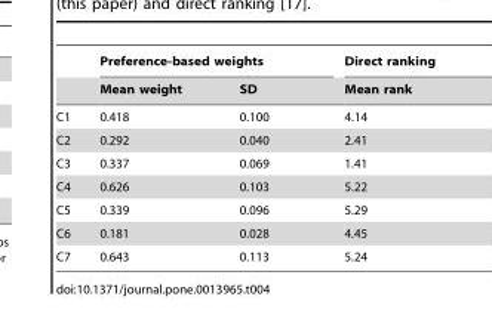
<table><thead><tr><td rowspan="2"></td><td colspan="2">Preference-based weights</td><td rowspan="2">Direct ranking Mean rank</td></tr><tr><td>Mean weight</td><td>SD</td></tr></thead><tbody><tr><td>C1</td><td>0.418</td><td>0.100</td><td>4.14</td></tr><tr><td>C2</td><td>0.292</td><td>0.040</td><td>2.41</td></tr><tr><td>C3</td><td>0.337</td><td>0.069</td><td>1.41</td></tr><tr><td>C4</td><td>0.626</td><td>0.103</td><td>5.22</td></tr><tr><td>C5</td><td>0.339</td><td>0.096</td><td>5.29</td></tr><tr><td>C6</td><td>0.181</td><td>0.028</td><td>4.45</td></tr><tr><td>C7</td><td>0.643</td><td>0.113</td><td>5.24</td></tr></tbody></table>